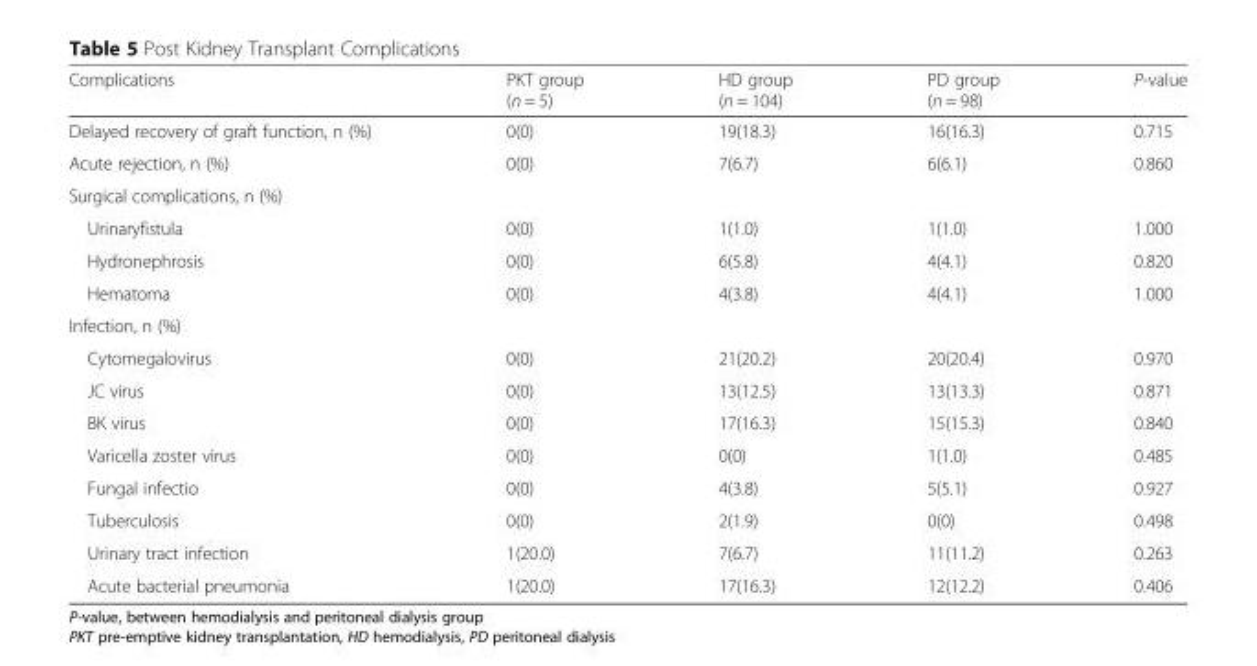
<table><thead><tr><td>Complications</td><td>PKT group (n = 5)</td><td>HD group (n = 104)</td><td>PD group (n = 98)</td><td>P-value</td></tr></thead><tbody><tr><td>Delayed recovery of graft function, n (%)</td><td>0(0)</td><td>19(18.3)</td><td>16(16.3)</td><td>0.715</td></tr><tr><td>Acute rejection, n (%)</td><td>0(0)</td><td>7(6.7)</td><td>6(6.1)</td><td>0.860</td></tr><tr><td colspan="5">Surgical complications, n (%)</td></tr><tr><td>Urinaryfistula</td><td>0(0)</td><td>1(1.0)</td><td>1(1.0)</td><td>1.000</td></tr><tr><td>Hydronephrosis</td><td>0(0)</td><td>6(5.8)</td><td>4(4.1)</td><td>0.820</td></tr><tr><td>Hematoma</td><td>0(0)</td><td>4(3.8)</td><td>4(4.1)</td><td>1.000</td></tr><tr><td colspan="5">Infection, n (%)</td></tr><tr><td>Cytomegalovirus</td><td>0(0)</td><td>21(20.2)</td><td>20(20.4)</td><td>0.970</td></tr><tr><td>JC virus</td><td>0(0)</td><td>13(12.5)</td><td>13(13.3)</td><td>0.871</td></tr><tr><td>BK virus</td><td>0(0)</td><td>17(16.3)</td><td>15(15.3)</td><td>0.840</td></tr><tr><td>Varicella zoster virus</td><td>0(0)</td><td>0(0)</td><td>1(1.0)</td><td>0.485</td></tr><tr><td>Fungal infectio</td><td>0(0)</td><td>4(3.8)</td><td>5(5.1)</td><td>0.927</td></tr><tr><td>Tuberculosis</td><td>0(0)</td><td>2(1.9)</td><td>0(0)</td><td>0.498</td></tr><tr><td>Urinary tract infection</td><td>1(20.0)</td><td>7(6.7)</td><td>11(11.2)</td><td>0.263</td></tr><tr><td>Acute bacterial pneumonia</td><td>1(20.0)</td><td>17(16.3)</td><td>12(12.2)</td><td>0.406</td></tr></tbody></table>